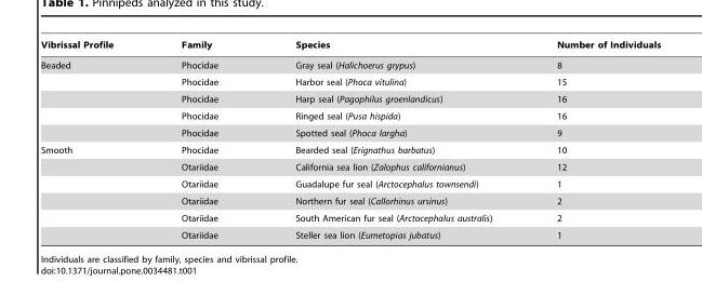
<table><thead><tr><td>Vibrissal Profile</td><td>Family</td><td>Species</td><td>Number of Individuals</td></tr></thead><tbody><tr><td rowspan="5">Beaded</td><td>Phocidae</td><td>Gray seal (Halichoerus grypus)</td><td>8</td></tr><tr><td>Phocidae</td><td>Harbor seal (Phoca vitulina)</td><td>15</td></tr><tr><td>Phocidae</td><td>Harp seal (Pagophilus groenlandicus)</td><td>16</td></tr><tr><td>Phocidae</td><td>Ringed seal (Pusa hispida)</td><td>16</td></tr><tr><td>Phocidae</td><td>Spotted seal (Phoca largha)</td><td>9</td></tr><tr><td rowspan="6">Smooth</td><td>Phocidae</td><td>Bearded seal (Erignathus barbatus)</td><td>10</td></tr><tr><td>Otariidae</td><td>California sea lion (Zalophus californianus)</td><td>12</td></tr><tr><td>Otariidae</td><td>Guadalupe fur seal (Arctocephalus townsendi)</td><td>1</td></tr><tr><td>Otariidae</td><td>Northern fur seal (Callorhinus ursinus)</td><td>2</td></tr><tr><td>Otariidae</td><td>South American fur seal (Arctocephalus australis)</td><td>2</td></tr><tr><td>Otariidae</td><td>Steller sea lion (Eumetopias jubatus)</td><td>1</td></tr></tbody></table>